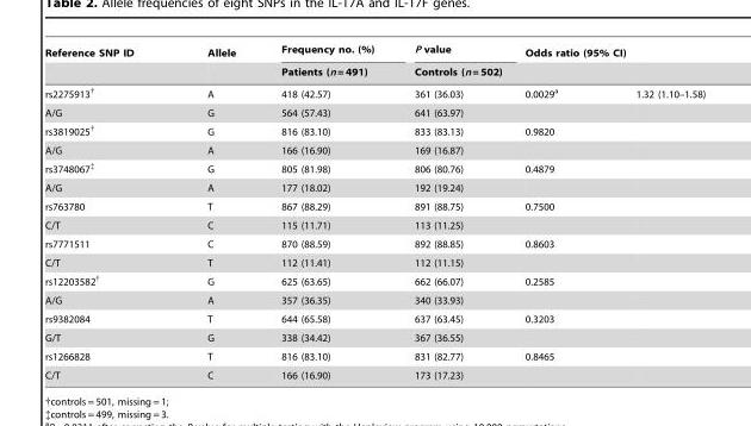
<table><thead><tr><td rowspan="2">Reference SNP ID</td><td rowspan="2">Allele</td><td rowspan="2">Frequency no. (%) Patients (n = 491)</td><td rowspan="2">P value Controls (n = 502)</td><td rowspan="2">Odds ratio (95% CI)</td><td rowspan="2"></td></tr><tr></tr></thead><tbody><tr><td>rs2275913†</td><td>A</td><td>418 (42.57)</td><td>361 (36.03)</td><td>0.0029<sup>a</sup></td><td>1.32 (1.10–1.58)</td></tr><tr><td>A/G</td><td>G</td><td>564 (57.43)</td><td>641 (63.97)</td><td></td><td></td></tr><tr><td>rs3819025†</td><td>G</td><td>816 (83.10)</td><td>833 (83.13)</td><td>0.9820</td><td></td></tr><tr><td>A/G</td><td>A</td><td>166 (16.90)</td><td>169 (16.87)</td><td></td><td></td></tr><tr><td>rs3748067‡</td><td>G</td><td>805 (81.98)</td><td>806 (80.76)</td><td>0.4879</td><td></td></tr><tr><td>A/G</td><td>A</td><td>177 (18.02)</td><td>192 (19.24)</td><td></td><td></td></tr><tr><td>rs763780</td><td>T</td><td>867 (88.29)</td><td>891 (88.75)</td><td>0.7500</td><td></td></tr><tr><td>C/T</td><td>C</td><td>115 (11.71)</td><td>113 (11.25)</td><td></td><td></td></tr><tr><td>rs7771511</td><td>C</td><td>870 (88.59)</td><td>892 (88.85)</td><td>0.8603</td><td></td></tr><tr><td>C/T</td><td>T</td><td>112 (11.41)</td><td>112 (11.15)</td><td></td><td></td></tr><tr><td>rs12203582†</td><td>G</td><td>625 (63.65)</td><td>662 (66.07)</td><td>0.2585</td><td></td></tr><tr><td>A/G</td><td>A</td><td>357 (36.35)</td><td>340 (33.93)</td><td></td><td></td></tr><tr><td>rs9382084</td><td>T</td><td>644 (65.58)</td><td>637 (63.45)</td><td>0.3203</td><td></td></tr><tr><td>G/T</td><td>G</td><td>338 (34.42)</td><td>367 (36.55)</td><td></td><td></td></tr><tr><td>rs1266828</td><td>T</td><td>816 (83.10)</td><td>831 (82.77)</td><td>0.8465</td><td></td></tr><tr><td>C/T</td><td>C</td><td>166 (16.90)</td><td>173 (17.23)</td><td></td><td></td></tr></tbody></table>